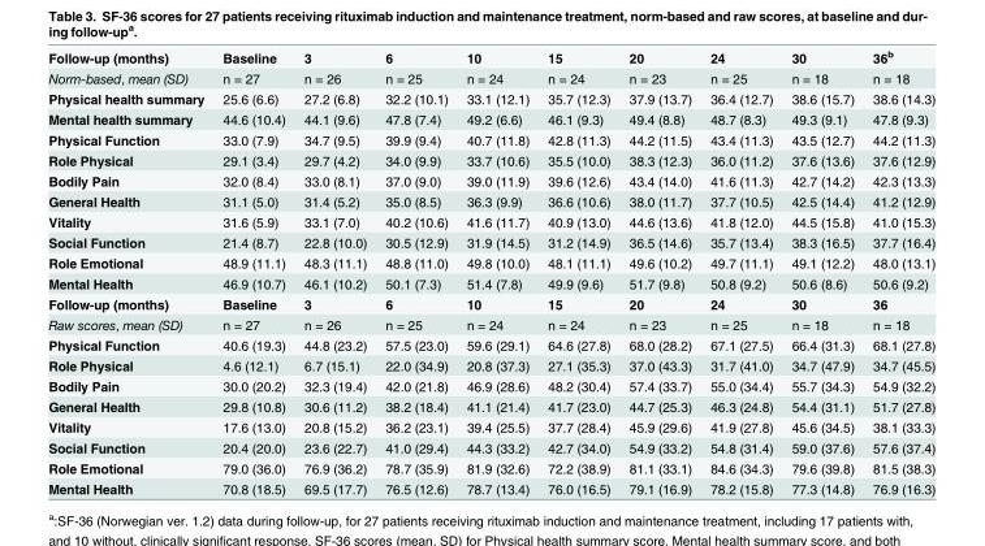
<table><tbody><tr><td>Follow-up (months)</td><td>Baseline</td><td>3</td><td>6</td><td>10</td><td>15</td><td>20</td><td>24</td><td>30</td><td>36<sup>b</sup></td></tr><tr><td>Norm-based, mean (SD)</td><td>n = 27</td><td>n = 26</td><td>n = 25</td><td>n = 24</td><td>n = 24</td><td>n = 23</td><td>n = 25</td><td>n = 18</td><td>n = 18</td></tr><tr><td>Physical health summary</td><td>25.6 (6.6)</td><td>27.2 (6.8)</td><td>32.2 (10.1)</td><td>33.1 (12.1)</td><td>35.7 (12.3)</td><td>37.9 (13.7)</td><td>36.4 (12.7)</td><td>38.6 (15.7)</td><td>38.6 (14.3)</td></tr><tr><td>Mental health summary</td><td>44.6 (10.4)</td><td>44.1 (9.6)</td><td>47.8 (7.4)</td><td>49.2 (6.6)</td><td>46.1 (9.3)</td><td>49.4 (8.8)</td><td>48.7 (8.3)</td><td>49.3 (9.1)</td><td>47.8 (9.3)</td></tr><tr><td>Physical Function</td><td>33.0 (7.9)</td><td>34.7 (9.5)</td><td>39.9 (9.4)</td><td>40.7 (11.8)</td><td>42.8 (11.3)</td><td>44.2 (11.5)</td><td>43.4 (11.3)</td><td>43.5 (12.7)</td><td>44.2 (11.3)</td></tr><tr><td>Role Physical</td><td>29.1 (3.4)</td><td>29.7 (4.2)</td><td>34.0 (9.9)</td><td>33.7 (10.6)</td><td>35.5 (10.0)</td><td>38.3 (12.3)</td><td>36.0 (11.2)</td><td>37.6 (13.6)</td><td>37.6 (12.9)</td></tr><tr><td>Bodily Pain</td><td>32.0 (8.4)</td><td>33.0 (8.1)</td><td>37.0 (9.0)</td><td>39.0 (11.9)</td><td>39.6 (12.6)</td><td>43.4 (14.0)</td><td>41.6 (11.3)</td><td>42.7 (14.2)</td><td>42.3 (13.3)</td></tr><tr><td>General Health</td><td>31.1 (5.0)</td><td>31.4 (5.2)</td><td>35.0 (8.5)</td><td>36.3 (9.9)</td><td>36.6 (10.6)</td><td>38.0 (11.7)</td><td>37.7 (10.5)</td><td>42.5 (14.4)</td><td>41.2 (12.9)</td></tr><tr><td>Vitality</td><td>31.6 (5.9)</td><td>33.1 (7.0)</td><td>40.2 (10.6)</td><td>41.6 (11.7)</td><td>40.9 (13.0)</td><td>44.6 (13.6)</td><td>41.8 (12.0)</td><td>44.5 (15.8)</td><td>41.0 (15.3)</td></tr><tr><td>Social Function</td><td>21.4 (8.7)</td><td>22.8 (10.0)</td><td>30.5 (12.9)</td><td>31.9 (14.5)</td><td>31.2 (14.9)</td><td>36.5 (14.6)</td><td>35.7 (13.4)</td><td>38.3 (16.5)</td><td>37.7 (16.4)</td></tr><tr><td>Role Emotional</td><td>48.9 (11.1)</td><td>48.3 (11.1)</td><td>48.8 (11.0)</td><td>49.8 (10.0)</td><td>48.1 (11.1)</td><td>49.6 (10.2)</td><td>49.7 (11.1)</td><td>49.1 (12.2)</td><td>48.0 (13.1)</td></tr><tr><td>Mental Health</td><td>46.9 (10.7)</td><td>46.1 (10.2)</td><td>50.1 (7.3)</td><td>51.4 (7.8)</td><td>49.9 (9.6)</td><td>51.7 (9.8)</td><td>50.8 (9.2)</td><td>50.6 (8.6)</td><td>50.6 (9.2)</td></tr><tr><td>Follow-up (months)</td><td>Baseline</td><td>3</td><td>6</td><td>10</td><td>15</td><td>20</td><td>24</td><td>30</td><td>36</td></tr><tr><td>Raw scores, mean (SD)</td><td>n = 27</td><td>n = 26</td><td>n = 25</td><td>n = 24</td><td>n = 24</td><td>n = 23</td><td>n = 25</td><td>n = 18</td><td>n = 18</td></tr><tr><td>Physical Function</td><td>40.6 (19.3)</td><td>44.8 (23.2)</td><td>57.5 (23.0)</td><td>59.6 (29.1)</td><td>64.6 (27.8)</td><td>68.0 (28.2)</td><td>67.1 (27.5)</td><td>66.4 (31.3)</td><td>68.1 (27.8)</td></tr><tr><td>Role Physical</td><td>4.6 (12.1)</td><td>6.7 (15.1)</td><td>22.0 (34.9)</td><td>20.8 (37.3)</td><td>27.1 (35.3)</td><td>37.0 (43.3)</td><td>31.7 (41.0)</td><td>34.7 (47.9)</td><td>34.7 (45.5)</td></tr><tr><td>Bodily Pain</td><td>30.0 (20.2)</td><td>32.3 (19.4)</td><td>42.0 (21.8)</td><td>46.9 (28.6)</td><td>48.2 (30.4)</td><td>57.4 (33.7)</td><td>55.0 (34.4)</td><td>55.7 (34.3)</td><td>54.9 (32.2)</td></tr><tr><td>General Health</td><td>29.8 (10.8)</td><td>30.6 (11.2)</td><td>38.2 (18.4)</td><td>41.1 (21.4)</td><td>41.7 (23.0)</td><td>44.7 (25.3)</td><td>46.3 (24.8)</td><td>54.4 (31.1)</td><td>51.7 (27.8)</td></tr><tr><td>Vitality</td><td>17.6 (13.0)</td><td>20.8 (15.2)</td><td>36.2 (23.1)</td><td>39.4 (25.5)</td><td>37.7 (28.4)</td><td>45.9 (29.6)</td><td>41.9 (27.8)</td><td>45.6 (34.5)</td><td>38.1 (33.3)</td></tr><tr><td>Social Function</td><td>20.4 (20.0)</td><td>23.6 (22.7)</td><td>41.0 (29.4)</td><td>44.3 (33.2)</td><td>42.7 (34.0)</td><td>54.9 (33.2)</td><td>54.8 (31.4)</td><td>59.0 (37.6)</td><td>57.6 (37.4)</td></tr><tr><td>Role Emotional</td><td>79.0 (36.0)</td><td>76.9 (36.2)</td><td>78.7 (35.9)</td><td>81.9 (32.6)</td><td>72.2 (38.9)</td><td>81.1 (33.1)</td><td>84.6 (34.3)</td><td>79.6 (39.8)</td><td>81.5 (38.3)</td></tr><tr><td>Mental Health</td><td>70.8 (18.5)</td><td>69.5 (17.7)</td><td>76.5 (12.6)</td><td>78.7 (13.4)</td><td>76.0 (16.5)</td><td>79.1 (16.9)</td><td>78.2 (15.8)</td><td>77.3 (14.8)</td><td>76.9 (16.3)</td></tr></tbody></table>